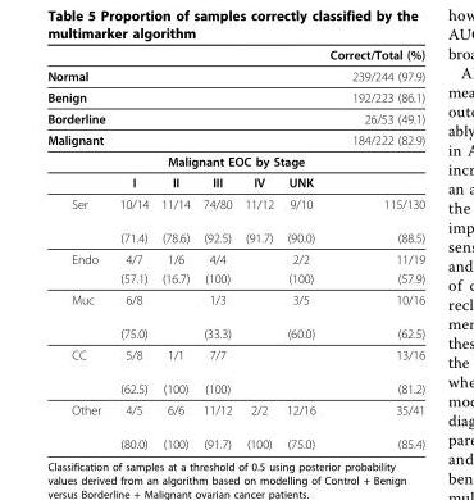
<table><thead><tr><td></td><td></td><td></td><td></td><td></td><td></td><td>Correct/Total (%)</td></tr></thead><tbody><tr><td>Normal</td><td></td><td></td><td></td><td></td><td></td><td>239/244 (97.9)</td></tr><tr><td>Benign</td><td></td><td></td><td></td><td></td><td></td><td>192/223 (86.1)</td></tr><tr><td>Borderline</td><td></td><td></td><td></td><td></td><td></td><td>26/53 (49.1)</td></tr><tr><td>Malignant</td><td></td><td></td><td></td><td></td><td></td><td>184/222 (82.9)</td></tr><tr><td colspan="7">Malignant EOC by Stage</td></tr><tr><td></td><td>I</td><td>II</td><td>III</td><td>IV</td><td>UNK</td><td></td></tr><tr><td rowspan="2">Ser</td><td>10/14</td><td>11/14</td><td>74/80</td><td>11/12</td><td>9/10</td><td>115/130</td></tr><tr><td>(71.4)</td><td>(78.6)</td><td>(92.5)</td><td>(91.7)</td><td>(90.0)</td><td>(88.5)</td></tr><tr><td rowspan="2">Endo</td><td>4/7</td><td>1/6</td><td>4/4</td><td></td><td>2/2</td><td>11/19</td></tr><tr><td>(57.1)</td><td>(16.7)</td><td>(100)</td><td></td><td>(100)</td><td>(57.9)</td></tr><tr><td rowspan="2">Muc</td><td>6/8</td><td></td><td>1/3</td><td></td><td>3/5</td><td>10/16</td></tr><tr><td>(75.0)</td><td></td><td>(33.3)</td><td></td><td>(60.0)</td><td>(62.5)</td></tr><tr><td rowspan="2">CC</td><td>5/8</td><td>1/1</td><td>7/7</td><td></td><td></td><td>13/16</td></tr><tr><td>(62.5)</td><td>(100)</td><td>(100)</td><td></td><td></td><td>(81.2)</td></tr><tr><td rowspan="2">Other</td><td>4/5</td><td>6/6</td><td>11/12</td><td>2/2</td><td>12/16</td><td>35/41</td></tr><tr><td>(80.0)</td><td>(100)</td><td>(91.7)</td><td>(100)</td><td>(75.0)</td><td>(85.4)</td></tr></tbody></table>